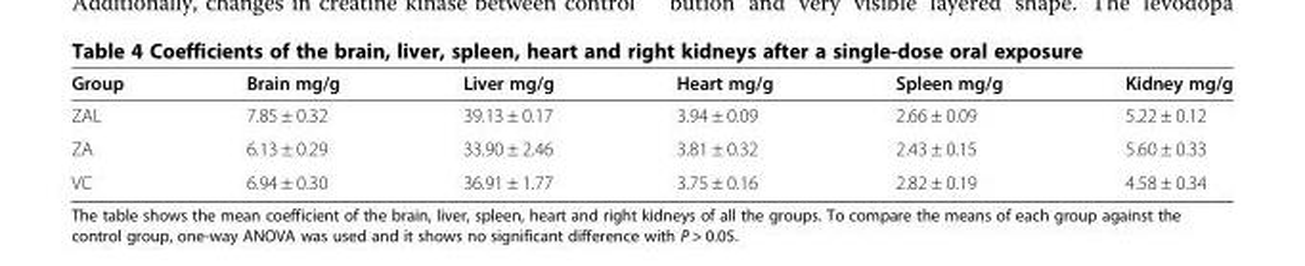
<table><thead><tr><td>Group</td><td>Brain mg/g</td><td>Liver mg/g</td><td>Heart mg/g</td><td>Spleen mg/g</td><td>Kidney mg/g</td></tr></thead><tbody><tr><td>ZAL</td><td>7.85 ± 0.32</td><td>39.13 ± 0.17</td><td>3.94 ± 0.09</td><td>2.66 ± 0.09</td><td>5.22 ± 0.12</td></tr><tr><td>ZA</td><td>6.13 ± 0.29</td><td>33.90 ± 2.46</td><td>3.81 ± 0.32</td><td>2.43 ± 0.15</td><td>5.60 ± 0.33</td></tr><tr><td>VC</td><td>6.94 ± 0.30</td><td>36.91 ± 1.77</td><td>3.75 ± 0.16</td><td>2.82 ± 0.19</td><td>4.58 ± 0.34</td></tr></tbody></table>